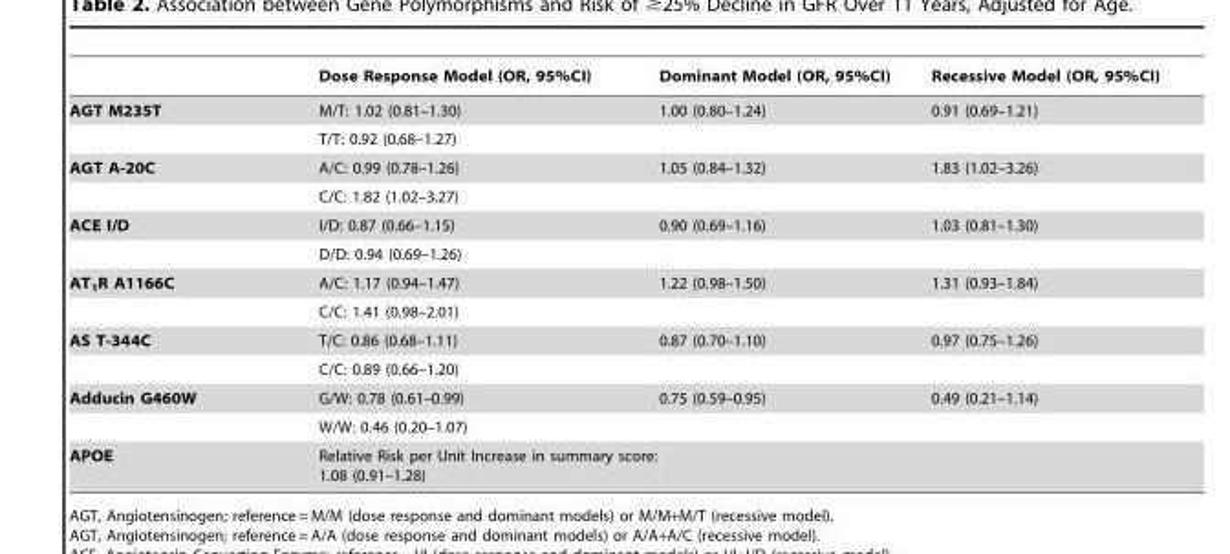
<table><thead><tr><td></td><td>Dose Response Model (OR, 95%CI)</td><td>Dominant Model (OR, 95%CI)</td><td>Recessive Model (OR, 95%CI)</td></tr></thead><tbody><tr><td rowspan="2">AGT M235T</td><td>M/T: 1.02 (0.81–1.30)</td><td>1.00 (0.80–1.24)</td><td>0.91 (0.69–1.21)</td></tr><tr><td>T/T: 0.92 (0.68–1.27)</td><td></td><td></td></tr><tr><td rowspan="2">AGT A-20C</td><td>A/C: 0.99 (0.78–1.26)</td><td>1.05 (0.84–1.32)</td><td>1.83 (1.02–3.26)</td></tr><tr><td>C/C: 1.82 (1.02–3.27)</td><td></td><td></td></tr><tr><td rowspan="2">ACE I/D</td><td>I/D: 0.87 (0.66–1.15)</td><td>0.90 (0.69–1.16)</td><td>1.03 (0.81–1.30)</td></tr><tr><td>D/D: 0.94 (0.69–1.26)</td><td></td><td></td></tr><tr><td rowspan="2">AT<sub>1</sub>R A1166C</td><td>A/C: 1.17 (0.94–1.47)</td><td>1.22 (0.98–1.50)</td><td>1.31 (0.93–1.84)</td></tr><tr><td>C/C: 1.41 (0.98–2.01)</td><td></td><td></td></tr><tr><td rowspan="2">AS T-344C</td><td>T/C: 0.86 (0.68–1.11)</td><td>0.87 (0.70–1.10)</td><td>0.97 (0.75–1.26)</td></tr><tr><td>C/C: 0.89 (0.66–1.20)</td><td></td><td></td></tr><tr><td rowspan="2">Adducin G460W</td><td>G/W: 0.78 (0.61–0.99)</td><td>0.75 (0.59–0.95)</td><td>0.49 (0.21–1.14)</td></tr><tr><td>W/W: 0.46 (0.20–1.07)</td><td></td><td></td></tr><tr><td>APOE</td><td>Relative Risk per Unit Increase in summary score: 1.08 (0.91–1.28)</td><td></td><td></td></tr></tbody></table>